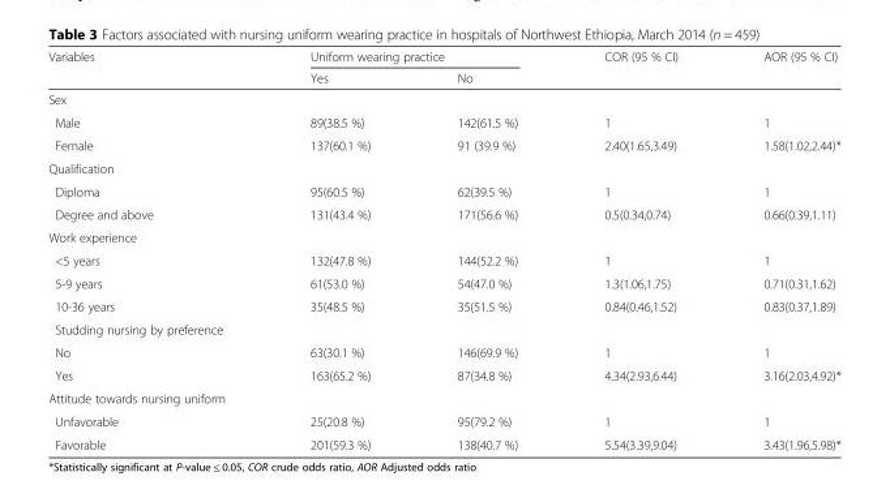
<table><thead><tr><td rowspan="2">Variables</td><td colspan="2">Uniform wearing practice</td><td rowspan="2">COR (95 % CI)</td><td rowspan="2">AOR (95 % CI)</td></tr><tr><td>Yes</td><td>No</td></tr></thead><tbody><tr><td colspan="5">Sex</td></tr><tr><td>Male</td><td>89(38.5 %)</td><td>142(61.5 %)</td><td>1</td><td>1</td></tr><tr><td>Female</td><td>137(60.1 %)</td><td>91 (39.9 %)</td><td>2.40(1.65,3.49)</td><td>1.58(1.02,2.44)*</td></tr><tr><td colspan="5">Qualification</td></tr><tr><td>Diploma</td><td>95(60.5 %)</td><td>62(39.5 %)</td><td>1</td><td>1</td></tr><tr><td>Degree and above</td><td>131(43.4 %)</td><td>171(56.6 %)</td><td>0.5(0.34,0.74)</td><td>0.66(0.39,1.11)</td></tr><tr><td colspan="5">Work experience</td></tr><tr><td>&lt;5 years</td><td>132(47.8 %)</td><td>144(52.2 %)</td><td>1</td><td>1</td></tr><tr><td>5-9 years</td><td>61(53.0 %)</td><td>54(47.0 %)</td><td>1.3(1.06,1.75)</td><td>0.71(0.31,1.62)</td></tr><tr><td>10-36 years</td><td>35(48.5 %)</td><td>35(51.5 %)</td><td>0.84(0.46,1.52)</td><td>0.83(0.37,1.89)</td></tr><tr><td colspan="5">Studding nursing by preference</td></tr><tr><td>No</td><td>63(30.1 %)</td><td>146(69.9 %)</td><td>1</td><td>1</td></tr><tr><td>Yes</td><td>163(65.2 %)</td><td>87(34.8 %)</td><td>4.34(2.93,6.44)</td><td>3.16(2.03,4.92)*</td></tr><tr><td colspan="5">Attitude towards nursing uniform</td></tr><tr><td>Unfavorable</td><td>25(20.8 %)</td><td>95(79.2 %)</td><td>1</td><td>1</td></tr><tr><td>Favorable</td><td>201(59.3 %)</td><td>138(40.7 %)</td><td>5.54(3.39,9.04)</td><td>3.43(1.96,5.98)*</td></tr></tbody></table>